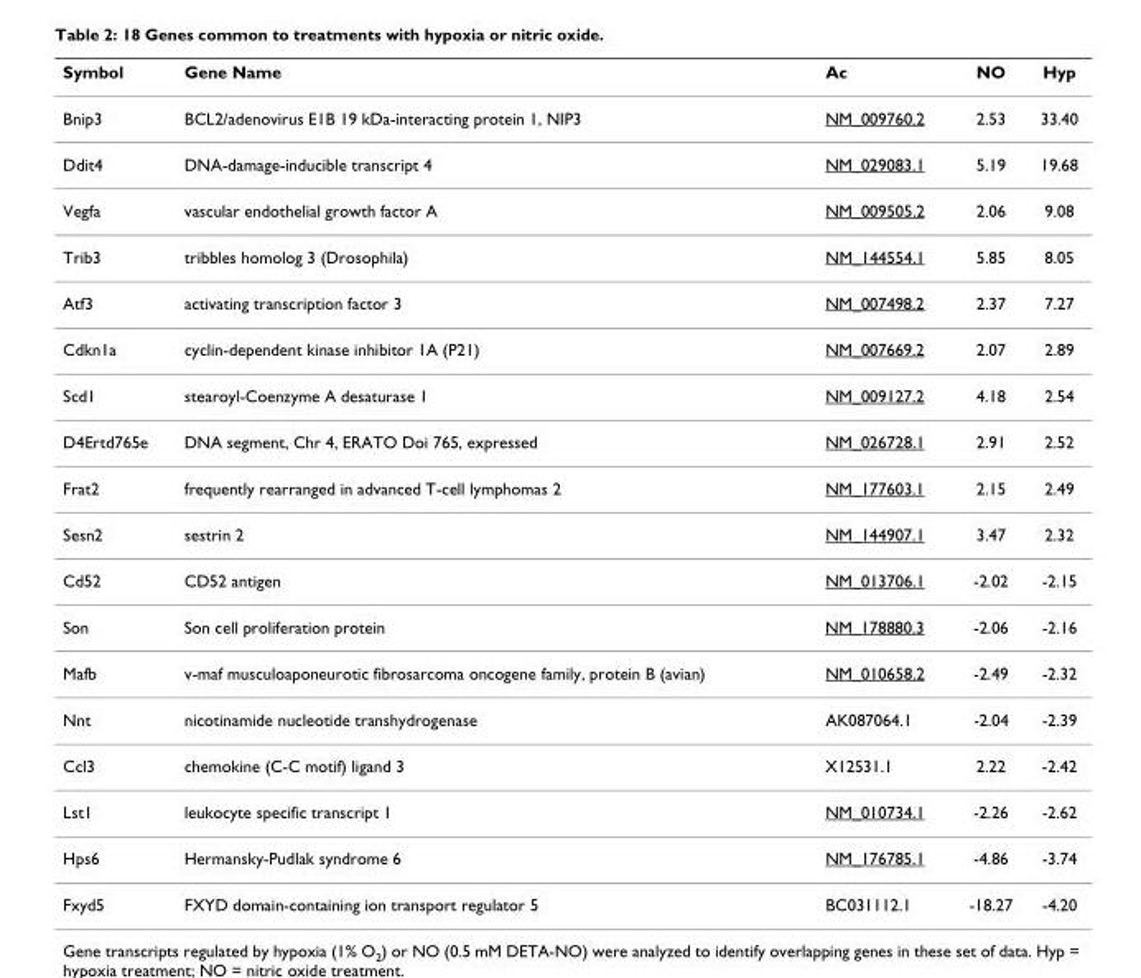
<table><thead><tr><td>Symbol</td><td>Gene Name</td><td>Ac</td><td>NO</td><td>Hyp</td></tr></thead><tbody><tr><td>Bnip3</td><td>BCL2/adenovirus E1B 19 kDa-interacting protein 1, NIP3</td><td>NM_009760.2</td><td>2.53</td><td>33.40</td></tr><tr><td>Ddit4</td><td>DNA-damage-inducible transcript 4</td><td>NM_029083.1</td><td>5.19</td><td>19.68</td></tr><tr><td>Vegfa</td><td>vascular endothelial growth factor A</td><td>NM_009505.2</td><td>2.06</td><td>9.08</td></tr><tr><td>Trib3</td><td>tribbles homolog 3 (Drosophila)</td><td>NM_144554.1</td><td>5.85</td><td>8.05</td></tr><tr><td>Atf3</td><td>activating transcription factor 3</td><td>NM_007498.2</td><td>2.37</td><td>7.27</td></tr><tr><td>Cdkn1a</td><td>cyclin-dependent kinase inhibitor 1A (P21)</td><td>NM_007669.2</td><td>2.07</td><td>2.89</td></tr><tr><td>Scd1</td><td>stearoyl-Coenzyme A desaturase 1</td><td>NM_009127.2</td><td>4.18</td><td>2.54</td></tr><tr><td>D4Ertd765e</td><td>DNA segment, Chr 4, ERATO Doi 765, expressed</td><td>NM_026728.1</td><td>2.91</td><td>2.52</td></tr><tr><td>Frat2</td><td>frequently rearranged in advanced T-cell lymphomas 2</td><td>NM_177603.1</td><td>2.15</td><td>2.49</td></tr><tr><td>Sesn2</td><td>sestrin 2</td><td>NM_144907.1</td><td>3.47</td><td>2.32</td></tr><tr><td>Cd52</td><td>CD52 antigen</td><td>NM_013706.1</td><td>-2.02</td><td>-2.15</td></tr><tr><td>Son</td><td>Son cell proliferation protein</td><td>NM_178880.3</td><td>-2.06</td><td>-2.16</td></tr><tr><td>Mafb</td><td>v-maf musculoaponeurotic fibrosarcoma oncogene family, protein B (avian)</td><td>NM_010658.2</td><td>-2.49</td><td>-2.32</td></tr><tr><td>Nnt</td><td>nicotinamide nucleotide transhydrogenase</td><td>AK087064.1</td><td>-2.04</td><td>-2.39</td></tr><tr><td>Ccl3</td><td>chemokine (C-C motif) ligand 3</td><td>X12531.1</td><td>2.22</td><td>-2.42</td></tr><tr><td>Lst1</td><td>leukocyte specific transcript 1</td><td>NM_010734.1</td><td>-2.26</td><td>-2.62</td></tr><tr><td>Hps6</td><td>Hermansky-Pudlak syndrome 6</td><td>NM_176785.1</td><td>-4.86</td><td>-3.74</td></tr><tr><td>Fxyd5</td><td>FXYD domain-containing ion transport regulator 5</td><td>BC031112.1</td><td>-18.27</td><td>-4.20</td></tr></tbody></table>